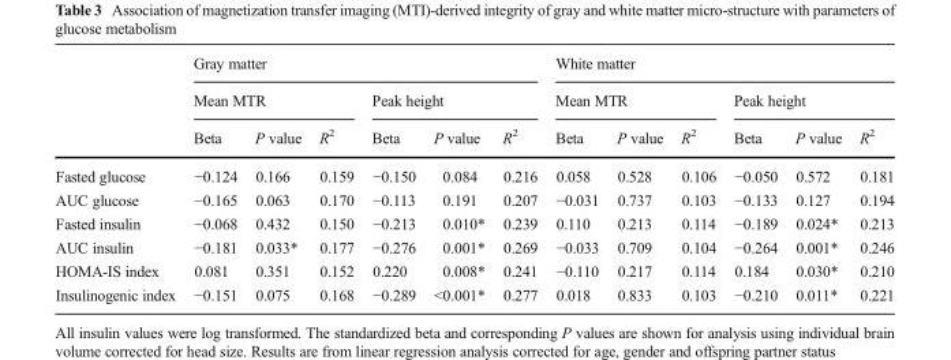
<table><thead><tr><td rowspan="3"></td><td colspan="6">Gray matter</td><td colspan="6">White matter</td></tr><tr><td colspan="3">Mean MTR</td><td colspan="3">Peak height</td><td colspan="3">Mean MTR</td><td colspan="3">Peak height</td></tr><tr><td>Beta</td><td>P value</td><td>R<sup>2</sup></td><td>Beta</td><td>P value</td><td>R<sup>2</sup></td><td>Beta</td><td>P value</td><td>R<sup>2</sup></td><td>Beta</td><td>P value</td><td>R<sup>2</sup></td></tr></thead><tbody><tr><td>Fasted glucose</td><td>−0.124</td><td>0.166</td><td>0.159</td><td>−0.150</td><td>0.084</td><td>0.216</td><td>0.058</td><td>0.528</td><td>0.106</td><td>−0.050</td><td>0.572</td><td>0.181</td></tr><tr><td>AUC glucose</td><td>−0.165</td><td>0.063</td><td>0.170</td><td>−0.113</td><td>0.191</td><td>0.207</td><td>−0.031</td><td>0.737</td><td>0.103</td><td>−0.133</td><td>0.127</td><td>0.194</td></tr><tr><td>Fasted insulin</td><td>−0.068</td><td>0.432</td><td>0.150</td><td>−0.213</td><td>0.010*</td><td>0.239</td><td>0.110</td><td>0.213</td><td>0.114</td><td>−0.189</td><td>0.024*</td><td>0.213</td></tr><tr><td>AUC insulin</td><td>−0.181</td><td>0.033*</td><td>0.177</td><td>−0.276</td><td>0.001*</td><td>0.269</td><td>−0.033</td><td>0.709</td><td>0.104</td><td>−0.264</td><td>0.001*</td><td>0.246</td></tr><tr><td>HOMA-IS index</td><td>0.081</td><td>0.351</td><td>0.152</td><td>0.220</td><td>0.008*</td><td>0.241</td><td>−0.110</td><td>0.217</td><td>0.114</td><td>0.184</td><td>0.030*</td><td>0.210</td></tr><tr><td>Insulinogenic index</td><td>−0.151</td><td>0.075</td><td>0.168</td><td>−0.289</td><td>&lt;0.001*</td><td>0.277</td><td>0.018</td><td>0.833</td><td>0.103</td><td>−0.210</td><td>0.011*</td><td>0.221</td></tr></tbody></table>